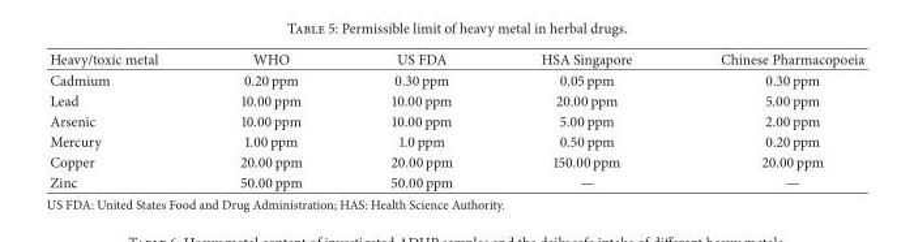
<table><thead><tr><td>Heavy/toxic metal</td><td>WHO</td><td>US FDA</td><td>HSA Singapore</td><td>Chinese Pharmacopoeia</td></tr></thead><tbody><tr><td>Cadmium</td><td>0.20 ppm</td><td>0.30 ppm</td><td>0.05 ppm</td><td>0.30 ppm</td></tr><tr><td>Lead</td><td>10.00 ppm</td><td>10.00 ppm</td><td>20.00 ppm</td><td>5.00 ppm</td></tr><tr><td>Arsenic</td><td>10.00 ppm</td><td>10.00 ppm</td><td>5.00 ppm</td><td>2.00 ppm</td></tr><tr><td>Mercury</td><td>1.00 ppm</td><td>1.0 ppm</td><td>0.50 ppm</td><td>0.20 ppm</td></tr><tr><td>Copper</td><td>20.00 ppm</td><td>20.00 ppm</td><td>150.00 ppm</td><td>20.00 ppm</td></tr><tr><td>Zinc</td><td>50.00 ppm</td><td>50.00 ppm</td><td>—</td><td>—</td></tr></tbody></table>